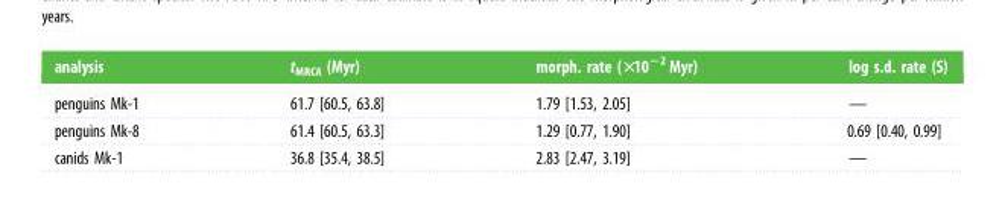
<table><thead><tr><td>analysis</td><td>t<sub>MRCA</sub> (Myr)</td><td>morph. rate (×10<sup>−2</sup> Myr)</td><td>log s.d. rate (S)</td></tr></thead><tbody><tr><td>penguins Mk-1</td><td>61.7 [60.5, 63.8]</td><td>1.79 [1.53, 2.05]</td><td>—</td></tr><tr><td>penguins Mk-8</td><td>61.4 [60.5, 63.3]</td><td>1.29 [0.77, 1.90]</td><td>0.69 [0.40, 0.99]</td></tr><tr><td>canids Mk-1</td><td>36.8 [35.4, 38.5]</td><td>2.83 [2.47, 3.19]</td><td>—</td></tr></tbody></table>